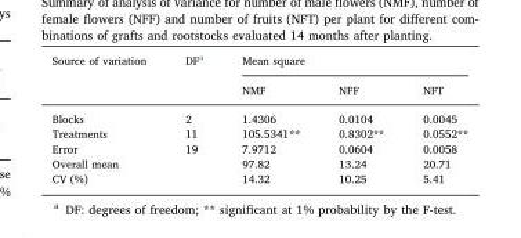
<table><thead><tr><td rowspan="2">Source of variation</td><td rowspan="2">DF<sup>a</sup></td><td colspan="3">Mean square</td></tr><tr><td>NMF</td><td>NFF</td><td>NFT</td></tr></thead><tbody><tr><td>Blocks</td><td>2</td><td>1.4306</td><td>0.0104</td><td>0.0045</td></tr><tr><td>Treatments</td><td>11</td><td>105.5341**</td><td>0.8302**</td><td>0.0552**</td></tr><tr><td>Error</td><td>19</td><td>7.9712</td><td>0.0604</td><td>0.0058</td></tr><tr><td>Overall mean</td><td></td><td>97.82</td><td>13.24</td><td>20.71</td></tr><tr><td>CV (%)</td><td></td><td>14.32</td><td>10.25</td><td>5.41</td></tr></tbody></table>